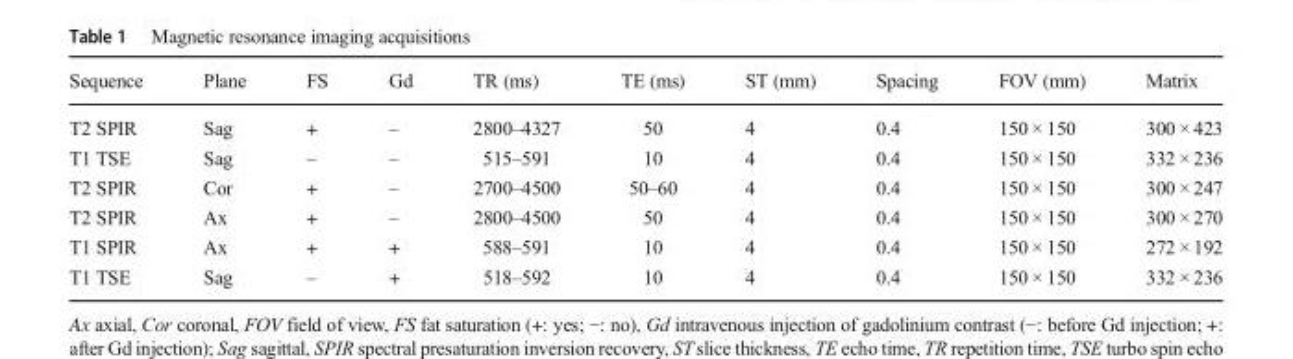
<table><thead><tr><td>Sequence</td><td>Plane</td><td>FS</td><td>Gd</td><td>TR (ms)</td><td>TE (ms)</td><td>ST (mm)</td><td>Spacing</td><td>FOV (mm)</td><td>Matrix</td></tr></thead><tbody><tr><td>T2 SPIR</td><td>Sag</td><td>+</td><td>–</td><td>2800–4327</td><td>50</td><td>4</td><td>0.4</td><td>150 × 150</td><td>300 × 423</td></tr><tr><td>T1 TSE</td><td>Sag</td><td>–</td><td>–</td><td>515–591</td><td>10</td><td>4</td><td>0.4</td><td>150 × 150</td><td>332 × 236</td></tr><tr><td>T2 SPIR</td><td>Cor</td><td>+</td><td>–</td><td>2700–4500</td><td>50–60</td><td>4</td><td>0.4</td><td>150 × 150</td><td>300 × 247</td></tr><tr><td>T2 SPIR</td><td>Ax</td><td>+</td><td>–</td><td>2800–4500</td><td>50</td><td>4</td><td>0.4</td><td>150 × 150</td><td>300 × 270</td></tr><tr><td>T1 SPIR</td><td>Ax</td><td>+</td><td>+</td><td>588–591</td><td>10</td><td>4</td><td>0.4</td><td>150 × 150</td><td>272 × 192</td></tr><tr><td>T1 TSE</td><td>Sag</td><td>–</td><td>+</td><td>518–592</td><td>10</td><td>4</td><td>0.4</td><td>150 × 150</td><td>332 × 236</td></tr></tbody></table>